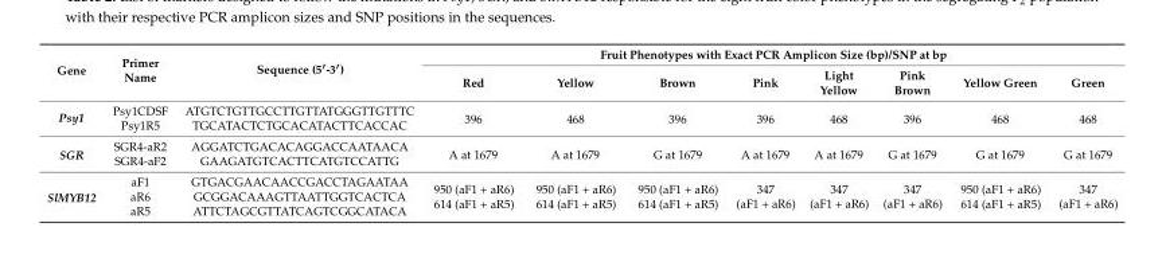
<table><thead><tr><td rowspan="2">Gene</td><td rowspan="2">Primer Name</td><td rowspan="2">Sequence (5′-3′)</td><td colspan="8">Fruit Phenotypes with Exact PCR Amplicon Size (bp)/SNP at bp</td></tr><tr><td>Red</td><td>Yellow</td><td>Brown</td><td>Pink</td><td>Light Yellow</td><td>Pink Brown</td><td>Yellow Green</td><td>Green</td></tr></thead><tbody><tr><td rowspan="2">Psy1</td><td>Psy1CDSF</td><td>ATGTCTGTTGCCTTGTTATGGGTTGTTTC</td><td rowspan="2">396</td><td rowspan="2">468</td><td rowspan="2">396</td><td rowspan="2">396</td><td rowspan="2">468</td><td rowspan="2">396</td><td rowspan="2">468</td><td rowspan="2">468</td></tr><tr><td>Psy1R5</td><td>TGCATACTCTGCACATACTTCACCAC</td></tr><tr><td rowspan="2">SGR</td><td>SGR4-aR2</td><td>AGGATCTGACACAGGACCAATAACA</td><td rowspan="2">A at 1679</td><td rowspan="2">A at 1679</td><td rowspan="2">G at 1679</td><td rowspan="2">A at 1679</td><td rowspan="2">A at 1679</td><td rowspan="2">G at 1679</td><td rowspan="2">G at 1679</td><td rowspan="2">G at 1679</td></tr><tr><td>SGR4-aF2</td><td>GAAGATGTCACTTCATGTCCATTG</td></tr><tr><td rowspan="3">SlMYB12</td><td>aF1</td><td>GTGACGAACAACCGACCTAGAATAA</td><td rowspan="3">950 (aF1 + aR6) 614 (aF1 + aR5)</td><td rowspan="3">950 (aF1 + aR6) 614 (aF1 + aR5)</td><td rowspan="3">950 (aF1 + aR6) 614 (aF1 + aR5)</td><td rowspan="3">347 (aF1 + aR6)</td><td rowspan="3">347 (aF1 + aR6)</td><td rowspan="3">347 (aF1 + aR6)</td><td rowspan="3">950 (aF1 + aR6) 614 (aF1 + aR5)</td><td rowspan="3">347 (aF1 + aR6)</td></tr><tr><td>aR6</td><td>GCGGACAAAGTTAATTGGTCACTCA</td></tr><tr><td>aR5</td><td>ATTCTAGCGTTATCAGTCGGCATACA</td></tr></tbody></table>